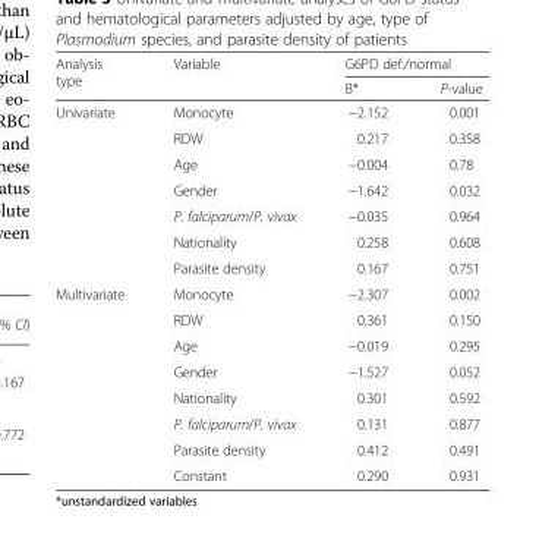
<table><thead><tr><td rowspan="2">Analysis type</td><td rowspan="2">Variable</td><td colspan="2">G6PD def./normal</td></tr><tr><td>B*</td><td>P-value</td></tr></thead><tbody><tr><td rowspan="7">Univariate</td><td>Monocyte</td><td>−2.152</td><td>0.001</td></tr><tr><td>RDW</td><td>0.217</td><td>0.358</td></tr><tr><td>Age</td><td>−0.004</td><td>0.78</td></tr><tr><td>Gender</td><td>−1.642</td><td>0.032</td></tr><tr><td>P. falciparum/P. vivax</td><td>−0.035</td><td>0.964</td></tr><tr><td>Nationality</td><td>0.258</td><td>0.608</td></tr><tr><td>Parasite density</td><td>0.167</td><td>0.751</td></tr><tr><td rowspan="8">Multivariate</td><td>Monocyte</td><td>−2.307</td><td>0.002</td></tr><tr><td>RDW</td><td>0.361</td><td>0.150</td></tr><tr><td>Age</td><td>−0.019</td><td>0.295</td></tr><tr><td>Gender</td><td>−1.527</td><td>0.052</td></tr><tr><td>Nationality</td><td>0.301</td><td>0.592</td></tr><tr><td>P. falciparum/P. vivax</td><td>0.131</td><td>0.877</td></tr><tr><td>Parasite density</td><td>0.412</td><td>0.491</td></tr><tr><td>Constant</td><td>0.290</td><td>0.931</td></tr></tbody></table>